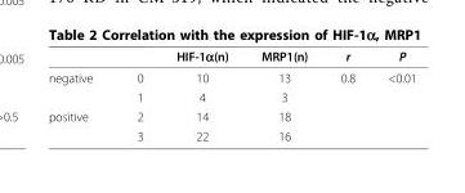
<table><thead><tr><td></td><td></td><td>HIF-1α(n)</td><td>MRP1(n)</td><td>r</td><td>P</td></tr></thead><tbody><tr><td rowspan="2">negative</td><td>0</td><td>10</td><td>13</td><td>0.8</td><td>&lt;0.01</td></tr><tr><td>1</td><td>4</td><td>3</td><td></td><td></td></tr><tr><td rowspan="2">positive</td><td>2</td><td>14</td><td>18</td><td></td><td></td></tr><tr><td>3</td><td>22</td><td>16</td><td></td><td></td></tr></tbody></table>